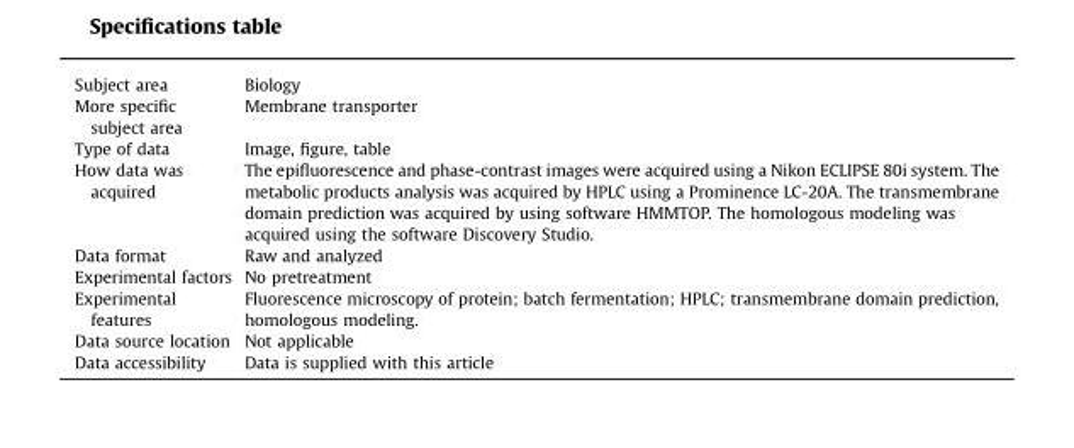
<table><tbody><tr><td>Subject area</td><td>Biology</td></tr><tr><td>More specific subject area</td><td>Membrane transporter</td></tr><tr><td>Type of data</td><td>Image, figure, table</td></tr><tr><td>How data was acquired</td><td>The epifluorescence and phase-contrast images were acquired using a Nikon ECLIPSE 80i system. The metabolic products analysis was acquired by HPLC using a Prominence LC-20A. The transmembrane domain prediction was acquired by using software HMMTOP. The homologous modeling was acquired using the software Discovery Studio.</td></tr><tr><td>Data format</td><td>Raw and analyzed</td></tr><tr><td>Experimental factors</td><td>No pretreatment</td></tr><tr><td>Experimental features</td><td>Fluorescence microscopy of protein; batch fermentation; HPLC; transmembrane domain prediction, homologous modeling.</td></tr><tr><td>Data source location</td><td>Not applicable</td></tr><tr><td>Data accessibility</td><td>Data is supplied with this article</td></tr></tbody></table>